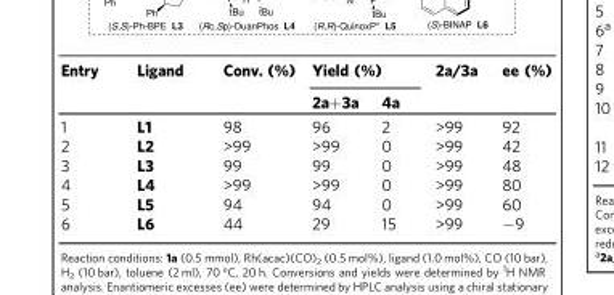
<table><thead><tr><td rowspan="2">Entry</td><td rowspan="2">Ligand</td><td rowspan="2">Conv. (%)</td><td colspan="2">Yield (%)</td><td rowspan="2">2a/3a</td><td rowspan="2">ee (%)</td></tr><tr><td>2a+3a</td><td>4a</td></tr></thead><tbody><tr><td>1</td><td>L1</td><td>98</td><td>96</td><td>2</td><td>&gt;99</td><td>92</td></tr><tr><td>2</td><td>L2</td><td>&gt;99</td><td>&gt;99</td><td>0</td><td>&gt;99</td><td>42</td></tr><tr><td>3</td><td>L3</td><td>99</td><td>99</td><td>0</td><td>&gt;99</td><td>48</td></tr><tr><td>4</td><td>L4</td><td>&gt;99</td><td>&gt;99</td><td>0</td><td>&gt;99</td><td>80</td></tr><tr><td>5</td><td>L5</td><td>94</td><td>94</td><td>0</td><td>&gt;99</td><td>60</td></tr><tr><td>6</td><td>L6</td><td>44</td><td>29</td><td>15</td><td>&gt;99</td><td>−9</td></tr></tbody></table>